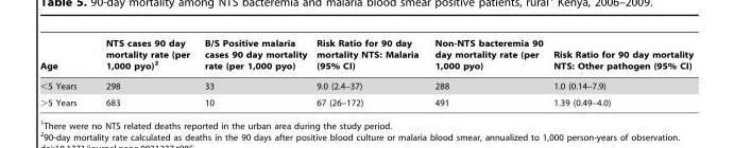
<table><thead><tr><td>Age</td><td>NTS cases 90 day mortality rate (per 1,000 pyo)<sup>2</sup></td><td>B/S Positive malaria cases 90 day mortality rate (per 1,000 pyo)</td><td>Risk Ratio for 90 day mortality NTS: Malaria (95% CI)</td><td>Non-NTS bacteremia 90 day mortality rate (per 1,000 pyo)</td><td>Risk Ratio for 90 day mortality NTS: Other pathogen (95% CI)</td></tr></thead><tbody><tr><td>&lt;5 Years</td><td>298</td><td>33</td><td>9.0 (2.4–37)</td><td>288</td><td>1.0 (0.14–7.9)</td></tr><tr><td>&gt;5 Years</td><td>683</td><td>10</td><td>67 (26–172)</td><td>491</td><td>1.39 (0.49–4.0)</td></tr></tbody></table>